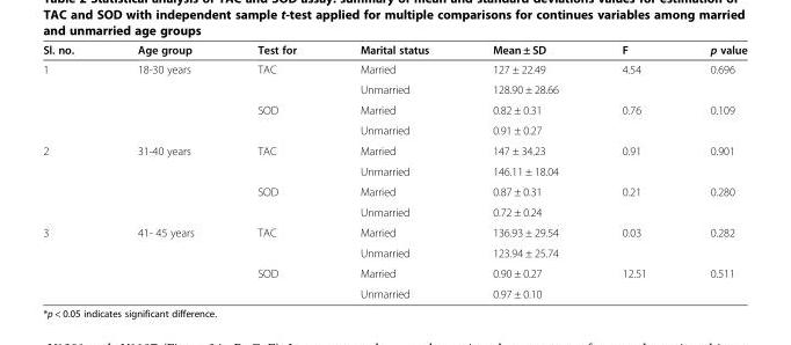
<table><thead><tr><td>Sl. no.</td><td>Age group</td><td>Test for</td><td>Marital status</td><td>Mean ± SD</td><td>F</td><td>p value</td></tr></thead><tbody><tr><td rowspan="4">1</td><td rowspan="4">18-30 years</td><td rowspan="2">TAC</td><td>Married</td><td>127 ± 22.49</td><td rowspan="2">4.54</td><td rowspan="2">0.696</td></tr><tr><td>Unmarried</td><td>128.90 ± 28.66</td></tr><tr><td rowspan="2">SOD</td><td>Married</td><td>0.82 ± 0.31</td><td rowspan="2">0.76</td><td rowspan="2">0.109</td></tr><tr><td>Unmarried</td><td>0.91 ± 0.27</td></tr><tr><td rowspan="4">2</td><td rowspan="4">31-40 years</td><td rowspan="2">TAC</td><td>Married</td><td>147 ± 34.23</td><td rowspan="2">0.91</td><td rowspan="2">0.901</td></tr><tr><td>Unmarried</td><td>146.11 ± 18.04</td></tr><tr><td rowspan="2">SOD</td><td>Married</td><td>0.87 ± 0.31</td><td rowspan="2">0.21</td><td rowspan="2">0.280</td></tr><tr><td>Unmarried</td><td>0.72 ± 0.24</td></tr><tr><td rowspan="4">3</td><td rowspan="4">41- 45 years</td><td rowspan="2">TAC</td><td>Married</td><td>136.93 ± 29.54</td><td rowspan="2">0.03</td><td rowspan="2">0.282</td></tr><tr><td>Unmarried</td><td>123.94 ± 25.74</td></tr><tr><td rowspan="2">SOD</td><td>Married</td><td>0.90 ± 0.27</td><td rowspan="2">12.51</td><td rowspan="2">0.511</td></tr><tr><td>Unmarried</td><td>0.97 ± 0.10</td></tr></tbody></table>